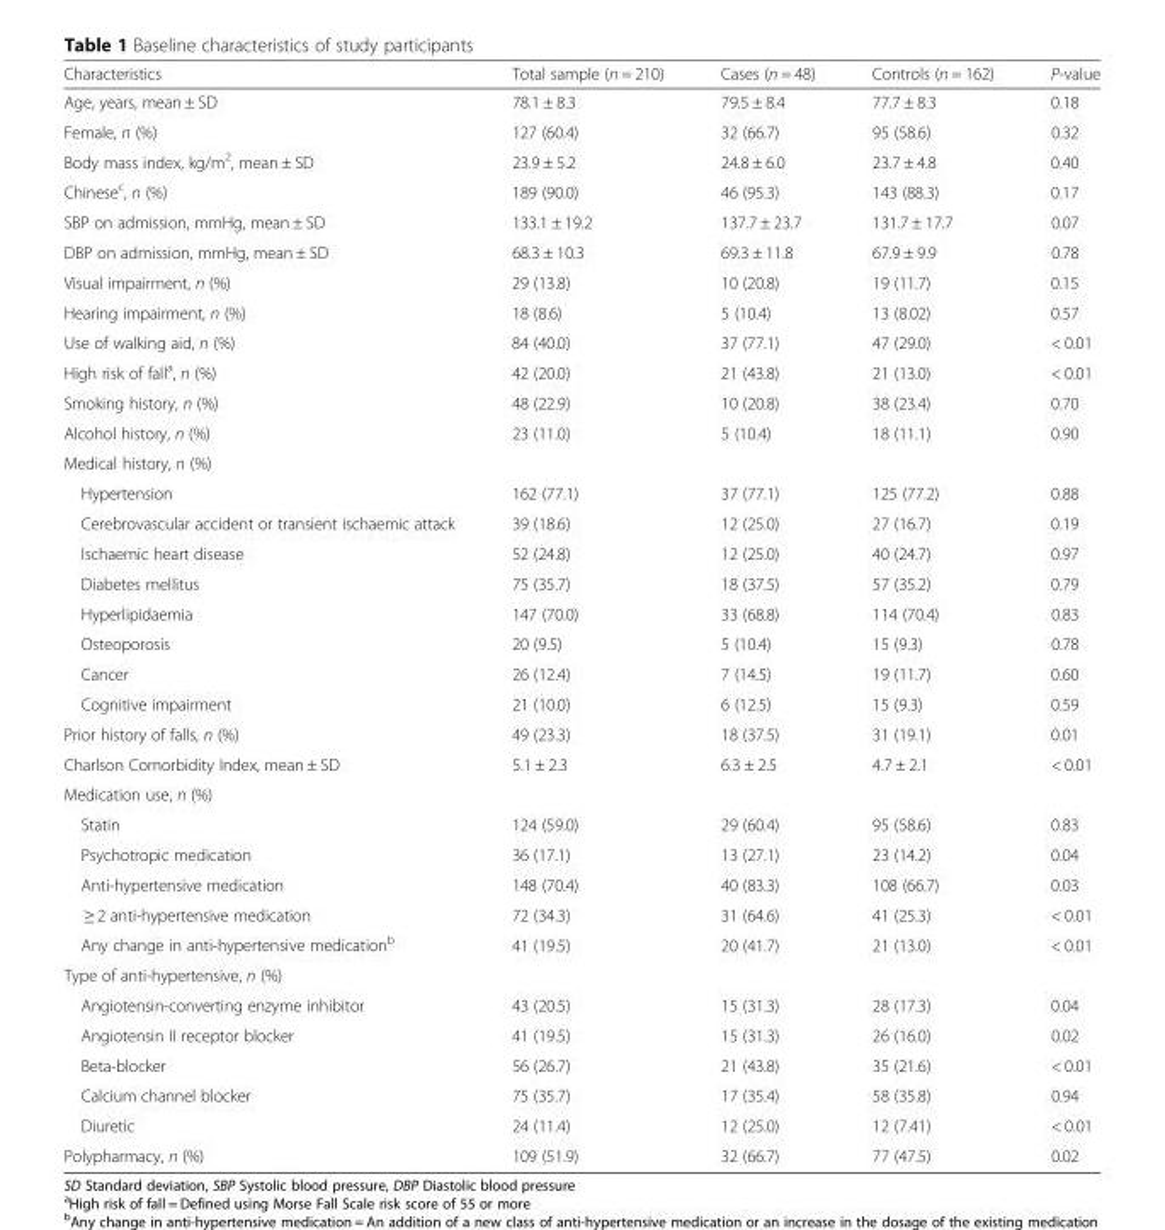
<table><thead><tr><td>Characteristics</td><td>Total sample (n = 210)</td><td>Cases (n = 48)</td><td>Controls (n = 162)</td><td>P-value</td></tr></thead><tbody><tr><td>Age, years, mean ± SD</td><td>78.1 ± 8.3</td><td>79.5 ± 8.4</td><td>77.7 ± 8.3</td><td>0.18</td></tr><tr><td>Female, n (%)</td><td>127 (60.4)</td><td>32 (66.7)</td><td>95 (58.6)</td><td>0.32</td></tr><tr><td>Body mass index, kg/m<sup>2</sup>, mean ± SD</td><td>23.9 ± 5.2</td><td>24.8 ± 6.0</td><td>23.7 ± 4.8</td><td>0.40</td></tr><tr><td>Chinese<sup>c</sup>, n (%)</td><td>189 (90.0)</td><td>46 (95.3)</td><td>143 (88.3)</td><td>0.17</td></tr><tr><td>SBP on admission, mmHg, mean ± SD</td><td>133.1 ± 19.2</td><td>137.7 ± 23.7</td><td>131.7 ± 17.7</td><td>0.07</td></tr><tr><td>DBP on admission, mmHg, mean ± SD</td><td>68.3 ± 10.3</td><td>69.3 ± 11.8</td><td>67.9 ± 9.9</td><td>0.78</td></tr><tr><td>Visual impairment, n (%)</td><td>29 (13.8)</td><td>10 (20.8)</td><td>19 (11.7)</td><td>0.15</td></tr><tr><td>Hearing impairment, n (%)</td><td>18 (8.6)</td><td>5 (10.4)</td><td>13 (8.02)</td><td>0.57</td></tr><tr><td>Use of walking aid, n (%)</td><td>84 (40.0)</td><td>37 (77.1)</td><td>47 (29.0)</td><td>&lt; 0.01</td></tr><tr><td>High risk of fall<sup>a</sup>, n (%)</td><td>42 (20.0)</td><td>21 (43.8)</td><td>21 (13.0)</td><td>&lt; 0.01</td></tr><tr><td>Smoking history, n (%)</td><td>48 (22.9)</td><td>10 (20.8)</td><td>38 (23.4)</td><td>0.70</td></tr><tr><td>Alcohol history, n (%)</td><td>23 (11.0)</td><td>5 (10.4)</td><td>18 (11.1)</td><td>0.90</td></tr><tr><td colspan="5">Medical history, n (%)</td></tr><tr><td>Hypertension</td><td>162 (77.1)</td><td>37 (77.1)</td><td>125 (77.2)</td><td>0.88</td></tr><tr><td>Cerebrovascular accident or transient ischaemic attack</td><td>39 (18.6)</td><td>12 (25.0)</td><td>27 (16.7)</td><td>0.19</td></tr><tr><td>Ischaemic heart disease</td><td>52 (24.8)</td><td>12 (25.0)</td><td>40 (24.7)</td><td>0.97</td></tr><tr><td>Diabetes mellitus</td><td>75 (35.7)</td><td>18 (37.5)</td><td>57 (35.2)</td><td>0.79</td></tr><tr><td>Hyperlipidaemia</td><td>147 (70.0)</td><td>33 (68.8)</td><td>114 (70.4)</td><td>0.83</td></tr><tr><td>Osteoporosis</td><td>20 (9.5)</td><td>5 (10.4)</td><td>15 (9.3)</td><td>0.78</td></tr><tr><td>Cancer</td><td>26 (12.4)</td><td>7 (14.5)</td><td>19 (11.7)</td><td>0.60</td></tr><tr><td>Cognitive impairment</td><td>21 (10.0)</td><td>6 (12.5)</td><td>15 (9.3)</td><td>0.59</td></tr><tr><td>Prior history of falls, n (%)</td><td>49 (23.3)</td><td>18 (37.5)</td><td>31 (19.1)</td><td>0.01</td></tr><tr><td>Charlson Comorbidity Index, mean ± SD</td><td>5.1 ± 2.3</td><td>6.3 ± 2.5</td><td>4.7 ± 2.1</td><td>&lt; 0.01</td></tr><tr><td colspan="5">Medication use, n (%)</td></tr><tr><td>Statin</td><td>124 (59.0)</td><td>29 (60.4)</td><td>95 (58.6)</td><td>0.83</td></tr><tr><td>Psychotropic medication</td><td>36 (17.1)</td><td>13 (27.1)</td><td>23 (14.2)</td><td>0.04</td></tr><tr><td>Anti-hypertensive medication</td><td>148 (70.4)</td><td>40 (83.3)</td><td>108 (66.7)</td><td>0.03</td></tr><tr><td>≥ 2 anti-hypertensive medication</td><td>72 (34.3)</td><td>31 (64.6)</td><td>41 (25.3)</td><td>&lt; 0.01</td></tr><tr><td>Any change in anti-hypertensive medication<sup>b</sup></td><td>41 (19.5)</td><td>20 (41.7)</td><td>21 (13.0)</td><td>&lt; 0.01</td></tr><tr><td colspan="5">Type of anti-hypertensive, n (%)</td></tr><tr><td>Angiotensin-converting enzyme inhibitor</td><td>43 (20.5)</td><td>15 (31.3)</td><td>28 (17.3)</td><td>0.04</td></tr><tr><td>Angiotensin II receptor blocker</td><td>41 (19.5)</td><td>15 (31.3)</td><td>26 (16.0)</td><td>0.02</td></tr><tr><td>Beta-blocker</td><td>56 (26.7)</td><td>21 (43.8)</td><td>35 (21.6)</td><td>&lt; 0.01</td></tr><tr><td>Calcium channel blocker</td><td>75 (35.7)</td><td>17 (35.4)</td><td>58 (35.8)</td><td>0.94</td></tr><tr><td>Diuretic</td><td>24 (11.4)</td><td>12 (25.0)</td><td>12 (7.41)</td><td>&lt; 0.01</td></tr><tr><td>Polypharmacy, n (%)</td><td>109 (51.9)</td><td>32 (66.7)</td><td>77 (47.5)</td><td>0.02</td></tr></tbody></table>